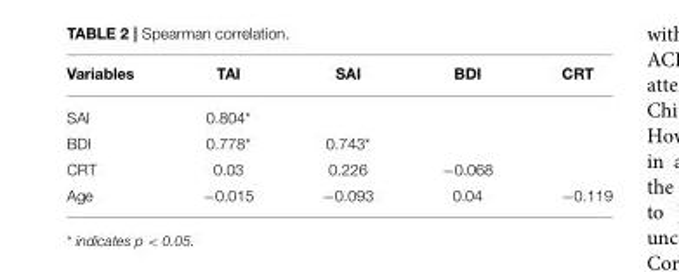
<table><thead><tr><td>Variables</td><td>TAI</td><td>SAI</td><td>BDI</td><td>CRT</td></tr></thead><tbody><tr><td>SAI</td><td>0.804*</td><td></td><td></td><td></td></tr><tr><td>BDI</td><td>0.778*</td><td>0.743*</td><td></td><td></td></tr><tr><td>CRT</td><td>0.03</td><td>0.226</td><td>−0.068</td><td></td></tr><tr><td>Age</td><td>−0.015</td><td>−0.093</td><td>0.04</td><td>−0.119</td></tr></tbody></table>